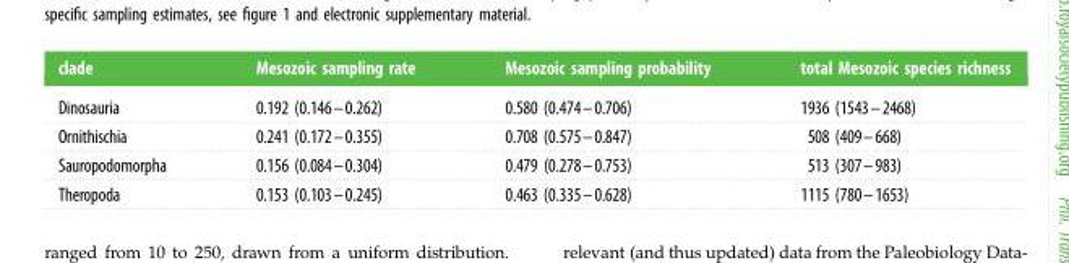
<table><thead><tr><td>clade</td><td>Mesozoic sampling rate</td><td>Mesozoic sampling probability</td><td>total Mesozoic species richness</td></tr></thead><tbody><tr><td>Dinosauria</td><td>0.192 (0.146–0.262)</td><td>0.580 (0.474–0.706)</td><td>1936 (1543–2468)</td></tr><tr><td>Ornithischia</td><td>0.241 (0.172–0.355)</td><td>0.708 (0.575–0.847)</td><td>508 (409–668)</td></tr><tr><td>Sauropodomorpha</td><td>0.156 (0.084–0.304)</td><td>0.479 (0.278–0.753)</td><td>513 (307–983)</td></tr><tr><td>Theropoda</td><td>0.153 (0.103–0.245)</td><td>0.463 (0.335–0.628)</td><td>1115 (780–1653)</td></tr></tbody></table>